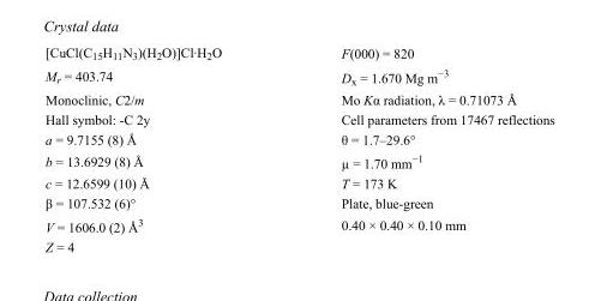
<table><tbody><tr><td>[CuCl(C<sub>15</sub>H<sub>11</sub>N<sub>3</sub>)(H<sub>2</sub>O)]Cl·H<sub>2</sub>O</td><td>F(000) = 820</td></tr><tr><td>M<sub>r</sub> = 403.74</td><td>D<sub>x</sub> = 1.670 Mg m<sup>−3</sup></td></tr><tr><td>Monoclinic, C2/m</td><td>Mo Kα radiation, λ = 0.71073 Å</td></tr><tr><td>Hall symbol: -C 2y</td><td>Cell parameters from 17467 reflections</td></tr><tr><td>a = 9.7155 (8) Å</td><td>θ = 1.7–29.6°</td></tr><tr><td>b = 13.6929 (8) Å</td><td>µ = 1.70 mm<sup>−1</sup></td></tr><tr><td>c = 12.6599 (10) Å</td><td>T = 173 K</td></tr><tr><td>β = 107.532 (6)°</td><td>Plate, blue-green</td></tr><tr><td>V = 1606.0 (2) Å<sup>3</sup></td><td>0.40 × 0.40 × 0.10 mm</td></tr><tr><td>Z = 4</td><td></td></tr></tbody></table>